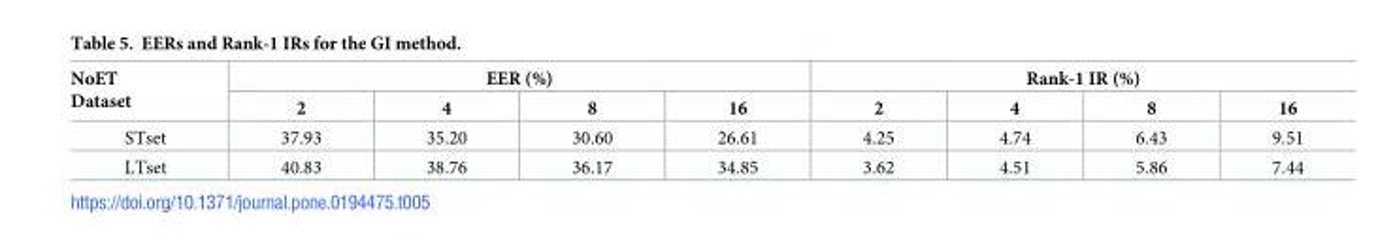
<table><thead><tr><td rowspan="2">NoET Dataset</td><td colspan="4">EER (%)</td><td colspan="4">Rank-1 IR (%)</td></tr><tr><td>2</td><td>4</td><td>8</td><td>16</td><td>2</td><td>4</td><td>8</td><td>16</td></tr></thead><tbody><tr><td>STset</td><td>37.93</td><td>35.20</td><td>30.60</td><td>26.61</td><td>4.25</td><td>4.74</td><td>6.43</td><td>9.51</td></tr><tr><td>LTset</td><td>40.83</td><td>38.76</td><td>36.17</td><td>34.85</td><td>3.62</td><td>4.51</td><td>5.86</td><td>7.44</td></tr></tbody></table>